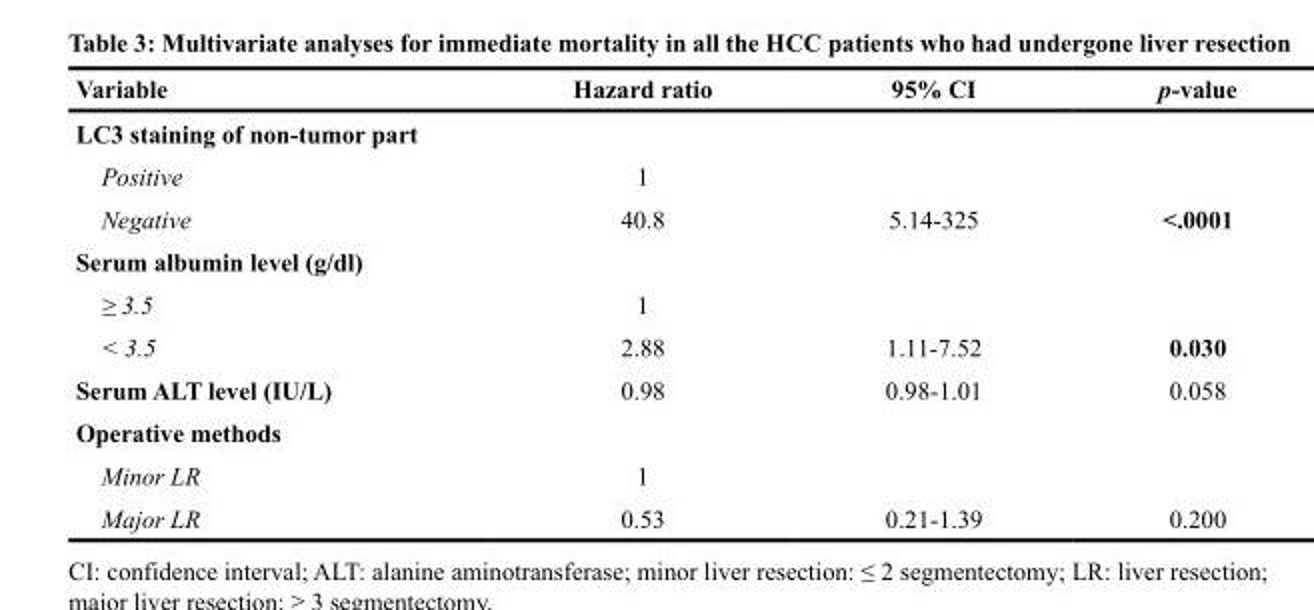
<table><thead><tr><td>Variable</td><td>Hazard ratio</td><td>95% CI</td><td>p-value</td></tr></thead><tbody><tr><td colspan="4">LC3 staining of non-tumor part</td></tr><tr><td>Positive</td><td>1</td><td></td><td></td></tr><tr><td>Negative</td><td>40.8</td><td>5.14-325</td><td>&lt;.0001</td></tr><tr><td colspan="4">Serum albumin level (g/dl)</td></tr><tr><td>≥ 3.5</td><td>1</td><td></td><td></td></tr><tr><td>&lt; 3.5</td><td>2.88</td><td>1.11-7.52</td><td>0.030</td></tr><tr><td>Serum ALT level (IU/L)</td><td>0.98</td><td>0.98-1.01</td><td>0.058</td></tr><tr><td colspan="4">Operative methods</td></tr><tr><td>Minor LR</td><td>1</td><td></td><td></td></tr><tr><td>Major LR</td><td>0.53</td><td>0.21-1.39</td><td>0.200</td></tr></tbody></table>